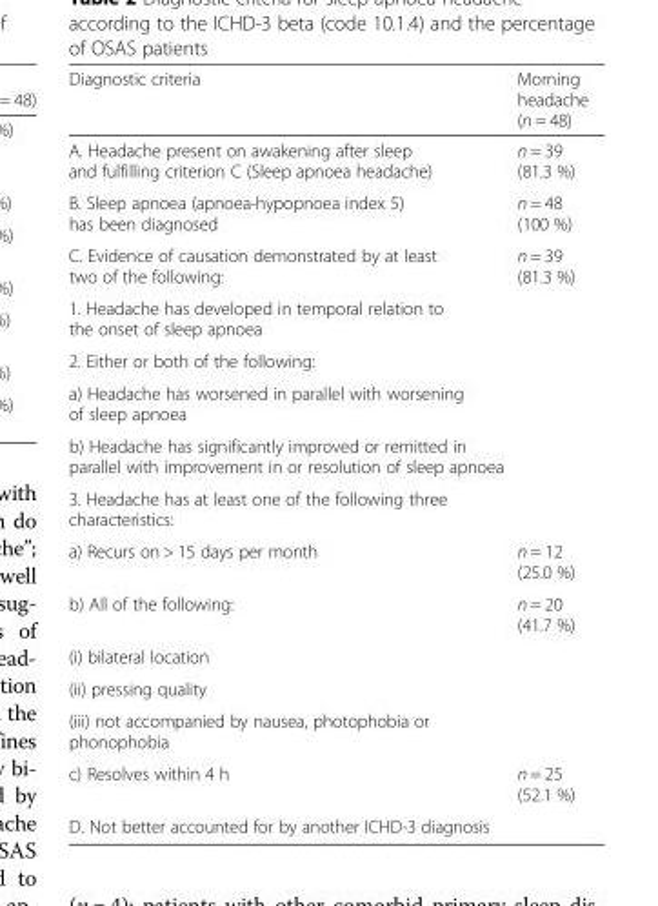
<table><thead><tr><td>Diagnostic criteria</td><td>Morning headache (n = 48)</td></tr></thead><tbody><tr><td>A. Headache present on awakening after sleep and fulfilling criterion C (Sleep apnoea headache)</td><td>n = 39 (81.3 %)</td></tr><tr><td>B. Sleep apnoea (apnoea-hypopnoea index 5) has been diagnosed</td><td>n = 48 (100 %)</td></tr><tr><td>C. Evidence of causation demonstrated by at least two of the following:</td><td>n = 39 (81.3 %)</td></tr><tr><td colspan="2">1. Headache has developed in temporal relation to the onset of sleep apnoea</td></tr><tr><td colspan="2">2. Either or both of the following:</td></tr><tr><td colspan="2">a) Headache has worsened in parallel with worsening of sleep apnoea</td></tr><tr><td colspan="2">b) Headache has significantly improved or remitted in parallel with improvement in or resolution of sleep apnoea</td></tr><tr><td colspan="2">3. Headache has at least one of the following three characteristics:</td></tr><tr><td>a) Recurs on &gt; 15 days per month</td><td>n = 12 (25.0 %)</td></tr><tr><td>b) All of the following:</td><td>n = 20 (41.7 %)</td></tr><tr><td colspan="2">(i) bilateral location</td></tr><tr><td colspan="2">(ii) pressing quality</td></tr><tr><td colspan="2">(iii) not accompanied by nausea, photophobia or phonophobia</td></tr><tr><td>c) Resolves within 4 h</td><td>n = 25 (52.1 %)</td></tr><tr><td>D. Not better accounted for by another ICHD-3 diagnosis</td><td></td></tr></tbody></table>